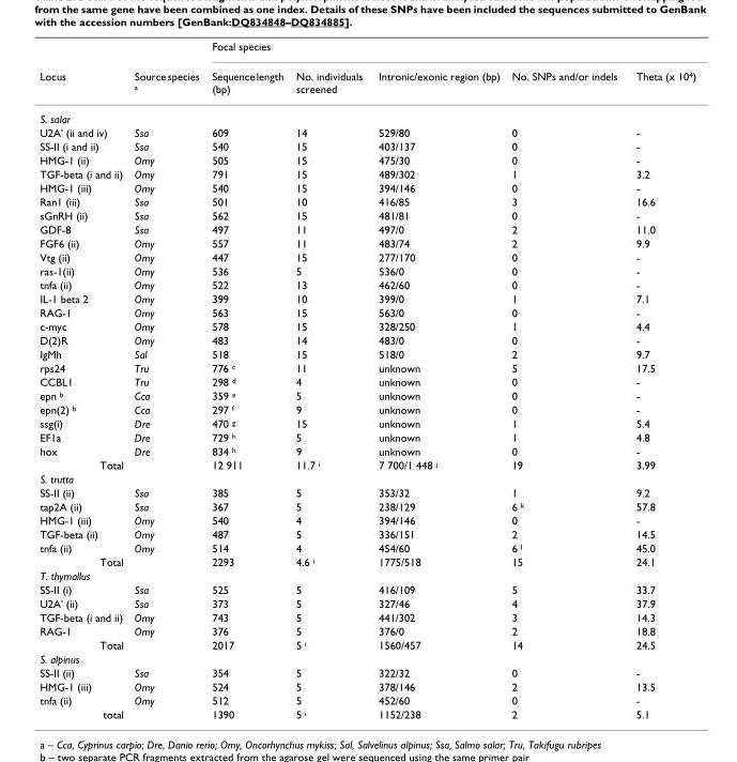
<table><thead><tr><td rowspan="2">Locus</td><td rowspan="2">Source species a</td><td colspan="5">Focal species</td></tr><tr><td>Sequence length (bp)</td><td>No. individuals screened</td><td>Intronic/exonic region (bp)</td><td>No. SNPs and/or indels</td><td>Theta (x 104)</td></tr></thead><tbody><tr><td colspan="7">S. salar</td></tr><tr><td>U2A&#x27; (ii and iv)</td><td>Ssa</td><td>609</td><td>14</td><td>529/80</td><td>0</td><td>-</td></tr><tr><td>SS-II (i and ii)</td><td>Ssa</td><td>540</td><td>15</td><td>403/137</td><td>0</td><td>-</td></tr><tr><td>HMG-1 (ii)</td><td>Omy</td><td>505</td><td>15</td><td>475/30</td><td>0</td><td>-</td></tr><tr><td>TGF-beta (i and ii)</td><td>Omy</td><td>791</td><td>15</td><td>489/302</td><td>1</td><td>3.2</td></tr><tr><td>HMG-1 (iii)</td><td>Omy</td><td>540</td><td>15</td><td>394/146</td><td>0</td><td>-</td></tr><tr><td>Ran1 (iii)</td><td>Ssa</td><td>501</td><td>10</td><td>416/85</td><td>3</td><td>16.6</td></tr><tr><td>sGnRH (ii)</td><td>Ssa</td><td>562</td><td>15</td><td>481/81</td><td>0</td><td>-</td></tr><tr><td>GDF-8</td><td>Ssa</td><td>497</td><td>11</td><td>497/0</td><td>2</td><td>11.0</td></tr><tr><td>FGF6 (ii)</td><td>Omy</td><td>557</td><td>11</td><td>483/74</td><td>2</td><td>9.9</td></tr><tr><td>Vtg (ii)</td><td>Omy</td><td>447</td><td>15</td><td>277/170</td><td>0</td><td>-</td></tr><tr><td>ras-1(ii)</td><td>Omy</td><td>536</td><td>5</td><td>536/0</td><td>0</td><td>-</td></tr><tr><td>tnfa (ii)</td><td>Omy</td><td>522</td><td>13</td><td>462/60</td><td>0</td><td>-</td></tr><tr><td>IL-1 beta 2</td><td>Omy</td><td>399</td><td>10</td><td>399/0</td><td>1</td><td>7.1</td></tr><tr><td>RAG-1</td><td>Omy</td><td>563</td><td>15</td><td>563/0</td><td>0</td><td>-</td></tr><tr><td>c-myc</td><td>Omy</td><td>578</td><td>15</td><td>328/250</td><td>1</td><td>4.4</td></tr><tr><td>D(2)R</td><td>Omy</td><td>483</td><td>14</td><td>483/0</td><td>0</td><td>-</td></tr><tr><td>IgMh</td><td>Sal</td><td>518</td><td>15</td><td>518/0</td><td>2</td><td>9.7</td></tr><tr><td>rps24</td><td>Tru</td><td>776 c</td><td>11</td><td>unknown</td><td>5</td><td>17.5</td></tr><tr><td>CCBL1</td><td>Tru</td><td>298 d</td><td>4</td><td>unknown</td><td>0</td><td>-</td></tr><tr><td>epn b</td><td>Cca</td><td>359 e</td><td>5</td><td>unknown</td><td>0</td><td>-</td></tr><tr><td>epn(2) b</td><td>Cca</td><td>297 f</td><td>9</td><td>unknown</td><td>0</td><td>-</td></tr><tr><td>ssg(i)</td><td>Dre</td><td>470 g</td><td>15</td><td>unknown</td><td>1</td><td>5.4</td></tr><tr><td>EF1a</td><td>Dre</td><td>729 h</td><td>5</td><td>unknown</td><td>1</td><td>4.8</td></tr><tr><td>hox</td><td>Dre</td><td>834 h</td><td>9</td><td>unknown</td><td>0</td><td>-</td></tr><tr><td>Total</td><td></td><td>12 911</td><td>11.7 i</td><td>7 700/1 448 j</td><td>19</td><td>3.99</td></tr><tr><td colspan="7">S. trutta</td></tr><tr><td>SS-II (ii)</td><td>Ssa</td><td>385</td><td>5</td><td>353/32</td><td>1</td><td>9.2</td></tr><tr><td>tap2A (ii)</td><td>Ssa</td><td>367</td><td>5</td><td>238/129</td><td>6 k</td><td>57.8</td></tr><tr><td>HMG-1 (iii)</td><td>Omy</td><td>540</td><td>4</td><td>394/146</td><td>0</td><td>-</td></tr><tr><td>TGF-beta (ii)</td><td>Omy</td><td>487</td><td>5</td><td>336/151</td><td>2</td><td>14.5</td></tr><tr><td>tnfa (ii)</td><td>Omy</td><td>514</td><td>4</td><td>454/60</td><td>6 l</td><td>45.0</td></tr><tr><td>Total</td><td></td><td>2293</td><td>4.6 i</td><td>1775/518</td><td>15</td><td>24.1</td></tr><tr><td colspan="7">T. thymallus</td></tr><tr><td>SS-II (i)</td><td>Ssa</td><td>525</td><td>5</td><td>416/109</td><td>5</td><td>33.7</td></tr><tr><td>U2A&#x27; (ii)</td><td>Ssa</td><td>373</td><td>5</td><td>327/46</td><td>4</td><td>37.9</td></tr><tr><td>TGF-beta (i and ii)</td><td>Omy</td><td>743</td><td>5</td><td>441/302</td><td>3</td><td>14.3</td></tr><tr><td>RAG-1</td><td>Omy</td><td>376</td><td>5</td><td>376/0</td><td>2</td><td>18.8</td></tr><tr><td>Total</td><td></td><td>2017</td><td>5 i</td><td>1560/457</td><td>14</td><td>24.5</td></tr><tr><td colspan="7">S. alpinus</td></tr><tr><td>SS-II (ii)</td><td>Ssa</td><td>354</td><td>5</td><td>322/32</td><td>0</td><td>-</td></tr><tr><td>HMG-1 (iii)</td><td>Omy</td><td>524</td><td>5</td><td>378/146</td><td>2</td><td>13.5</td></tr><tr><td>tnfa (ii)</td><td>Omy</td><td>512</td><td>5</td><td>452/60</td><td>0</td><td>-</td></tr><tr><td>total</td><td></td><td>1390</td><td>5 i</td><td>1152/238</td><td>2</td><td>5.1</td></tr></tbody></table>